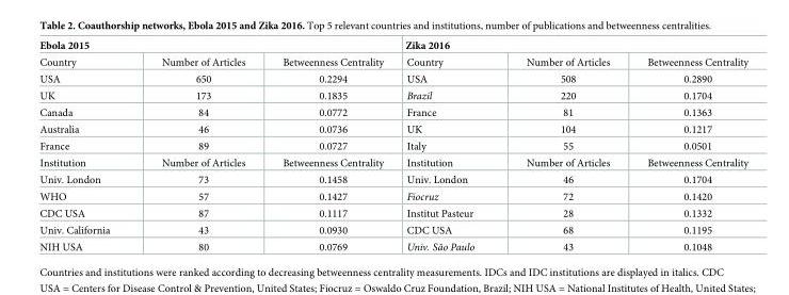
<table><thead><tr><td colspan="3">Ebola 2015</td><td colspan="3">Zika 2016</td></tr><tr><td>Country</td><td>Number of Articles</td><td>Betweenness Centrality</td><td>Country</td><td>Number of Articles</td><td>Betweenness Centrality</td></tr></thead><tbody><tr><td>USA</td><td>650</td><td>0.2294</td><td>USA</td><td>508</td><td>0.2890</td></tr><tr><td>UK</td><td>173</td><td>0.1835</td><td>Brazil</td><td>220</td><td>0.1704</td></tr><tr><td>Canada</td><td>84</td><td>0.0772</td><td>France</td><td>81</td><td>0.1363</td></tr><tr><td>Australia</td><td>46</td><td>0.0736</td><td>UK</td><td>104</td><td>0.1217</td></tr><tr><td>France</td><td>89</td><td>0.0727</td><td>Italy</td><td>55</td><td>0.0501</td></tr><tr><td>Institution</td><td>Number of Articles</td><td>Betweenness Centrality</td><td>Institution</td><td>Number of Articles</td><td>Betweenness Centrality</td></tr><tr><td>Univ. London</td><td>73</td><td>0.1458</td><td>Univ. London</td><td>46</td><td>0.1704</td></tr><tr><td>WHO</td><td>57</td><td>0.1427</td><td>Fiocruz</td><td>72</td><td>0.1420</td></tr><tr><td>CDC USA</td><td>87</td><td>0.1117</td><td>Institut Pasteur</td><td>28</td><td>0.1332</td></tr><tr><td>Univ. California</td><td>43</td><td>0.0930</td><td>CDC USA</td><td>68</td><td>0.1195</td></tr><tr><td>NIH USA</td><td>80</td><td>0.0769</td><td>Univ. São Paulo</td><td>43</td><td>0.1048</td></tr></tbody></table>